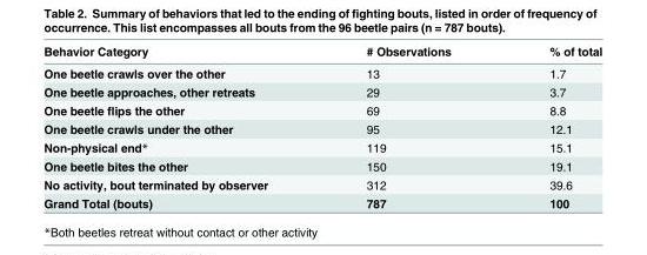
<table><thead><tr><td>Behavior Category</td><td># Observations</td><td>% of total</td></tr></thead><tbody><tr><td>One beetle crawls over the other</td><td>13</td><td>1.7</td></tr><tr><td>One beetle approaches, other retreats</td><td>29</td><td>3.7</td></tr><tr><td>One beetle flips the other</td><td>69</td><td>8.8</td></tr><tr><td>One beetle crawls under the other</td><td>95</td><td>12.1</td></tr><tr><td>Non-physical end*</td><td>119</td><td>15.1</td></tr><tr><td>One beetle bites the other</td><td>150</td><td>19.1</td></tr><tr><td>No activity, bout terminated by observer</td><td>312</td><td>39.6</td></tr><tr><td>Grand Total (bouts)</td><td>787</td><td>100</td></tr></tbody></table>